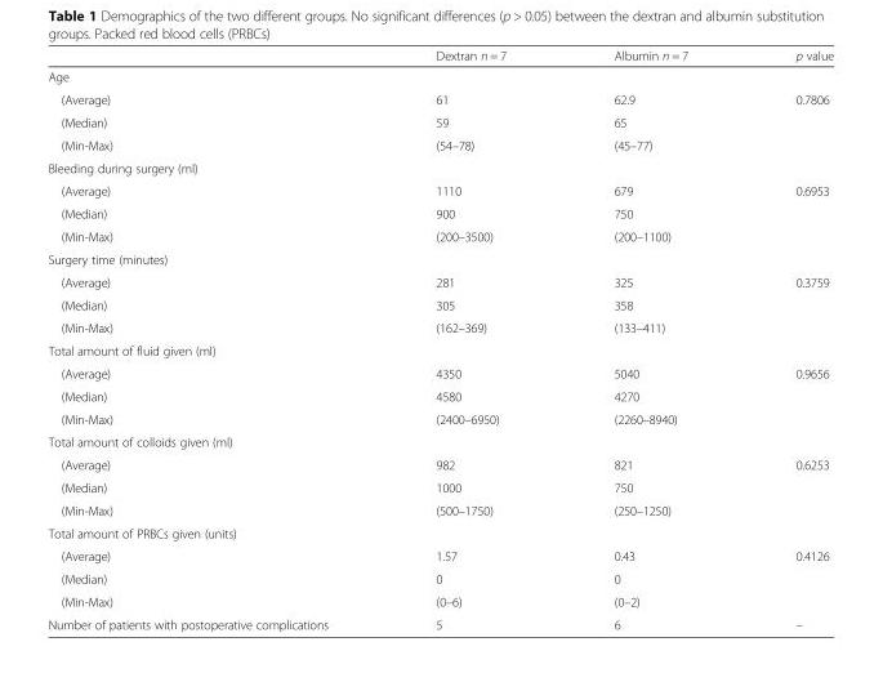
<table><thead><tr><td></td><td>Dextran n = 7</td><td>Albumin n = 7</td><td>p value</td></tr></thead><tbody><tr><td colspan="4">Age</td></tr><tr><td>(Average)</td><td>61</td><td>62.9</td><td>0.7806</td></tr><tr><td>(Median)</td><td>59</td><td>65</td><td></td></tr><tr><td>(Min-Max)</td><td>(54–78)</td><td>(45–77)</td><td></td></tr><tr><td colspan="4">Bleeding during surgery (ml)</td></tr><tr><td>(Average)</td><td>1110</td><td>679</td><td>0.6953</td></tr><tr><td>(Median)</td><td>900</td><td>750</td><td></td></tr><tr><td>(Min-Max)</td><td>(200–3500)</td><td>(200–1100)</td><td></td></tr><tr><td colspan="4">Surgery time (minutes)</td></tr><tr><td>(Average)</td><td>281</td><td>325</td><td>0.3759</td></tr><tr><td>(Median)</td><td>305</td><td>358</td><td></td></tr><tr><td>(Min-Max)</td><td>(162–369)</td><td>(133–411)</td><td></td></tr><tr><td colspan="4">Total amount of fluid given (ml)</td></tr><tr><td>(Average)</td><td>4350</td><td>5040</td><td>0.9656</td></tr><tr><td>(Median)</td><td>4580</td><td>4270</td><td></td></tr><tr><td>(Min-Max)</td><td>(2400–6950)</td><td>(2260–8940)</td><td></td></tr><tr><td colspan="4">Total amount of colloids given (ml)</td></tr><tr><td>(Average)</td><td>982</td><td>821</td><td>0.6253</td></tr><tr><td>(Median)</td><td>1000</td><td>750</td><td></td></tr><tr><td>(Min-Max)</td><td>(500–1750)</td><td>(250–1250)</td><td></td></tr><tr><td colspan="4">Total amount of PRBCs given (units)</td></tr><tr><td>(Average)</td><td>1.57</td><td>0.43</td><td>0.4126</td></tr><tr><td>(Median)</td><td>0</td><td>0</td><td></td></tr><tr><td>(Min-Max)</td><td>(0–6)</td><td>(0–2)</td><td></td></tr><tr><td>Number of patients with postoperative complications</td><td>5</td><td>6</td><td>–</td></tr></tbody></table>